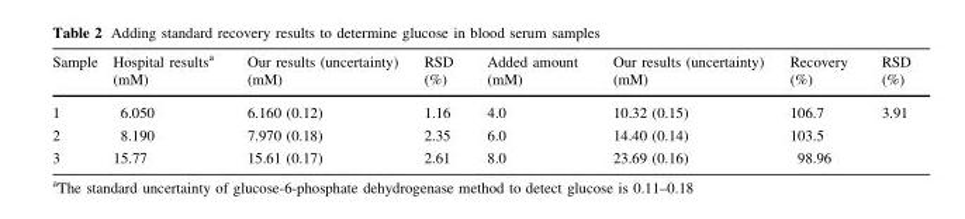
<table><thead><tr><td>Sample</td><td>Hospital results<sup>a</sup> (mM)</td><td>Our results (uncertainty) (mM)</td><td>RSD (%)</td><td>Added amount (mM)</td><td>Our results (uncertainty) (mM)</td><td>Recovery (%)</td><td>RSD (%)</td></tr></thead><tbody><tr><td>1</td><td>6.050</td><td>6.160 (0.12)</td><td>1.16</td><td>4.0</td><td>10.32 (0.15)</td><td>106.7</td><td>3.91</td></tr><tr><td>2</td><td>8.190</td><td>7.970 (0.18)</td><td>2.35</td><td>6.0</td><td>14.40 (0.14)</td><td>103.5</td><td></td></tr><tr><td>3</td><td>15.77</td><td>15.61 (0.17)</td><td>2.61</td><td>8.0</td><td>23.69 (0.16)</td><td>98.96</td><td></td></tr></tbody></table>